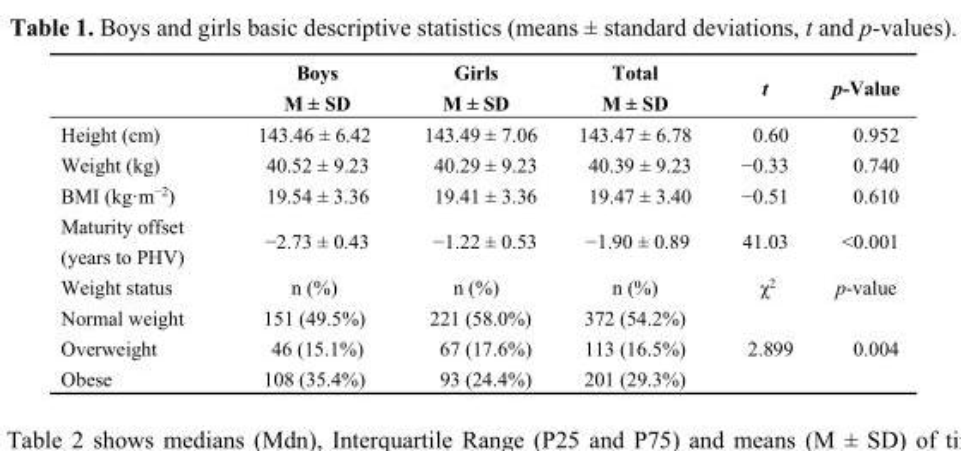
<table><thead><tr><td></td><td>Boys M ± SD</td><td>Girls M ± SD</td><td>Total M ± SD</td><td>t</td><td>p-Value</td></tr></thead><tbody><tr><td>Height (cm)</td><td>143.46 ± 6.42</td><td>143.49 ± 7.06</td><td>143.47 ± 6.78</td><td>0.60</td><td>0.952</td></tr><tr><td>Weight (kg)</td><td>40.52 ± 9.23</td><td>40.29 ± 9.23</td><td>40.39 ± 9.23</td><td>−0.33</td><td>0.740</td></tr><tr><td>BMI (kg·m<sup>−2</sup>)</td><td>19.54 ± 3.36</td><td>19.41 ± 3.36</td><td>19.47 ± 3.40</td><td>−0.51</td><td>0.610</td></tr><tr><td>Maturity offset (years to PHV)</td><td>−2.73 ± 0.43</td><td>−1.22 ± 0.53</td><td>−1.90 ± 0.89</td><td>41.03</td><td>&lt;0.001</td></tr><tr><td>Weight status</td><td>n (%)</td><td>n (%)</td><td>n (%)</td><td>χ<sup>2</sup></td><td>p-value</td></tr><tr><td>Normal weight</td><td>151 (49.5%)</td><td>221 (58.0%)</td><td>372 (54.2%)</td><td rowspan="3">2.899</td><td rowspan="3">0.004</td></tr><tr><td>Overweight</td><td>46 (15.1%)</td><td>67 (17.6%)</td><td>113 (16.5%)</td></tr><tr><td>Obese</td><td>108 (35.4%)</td><td>93 (24.4%)</td><td>201 (29.3%)</td></tr></tbody></table>